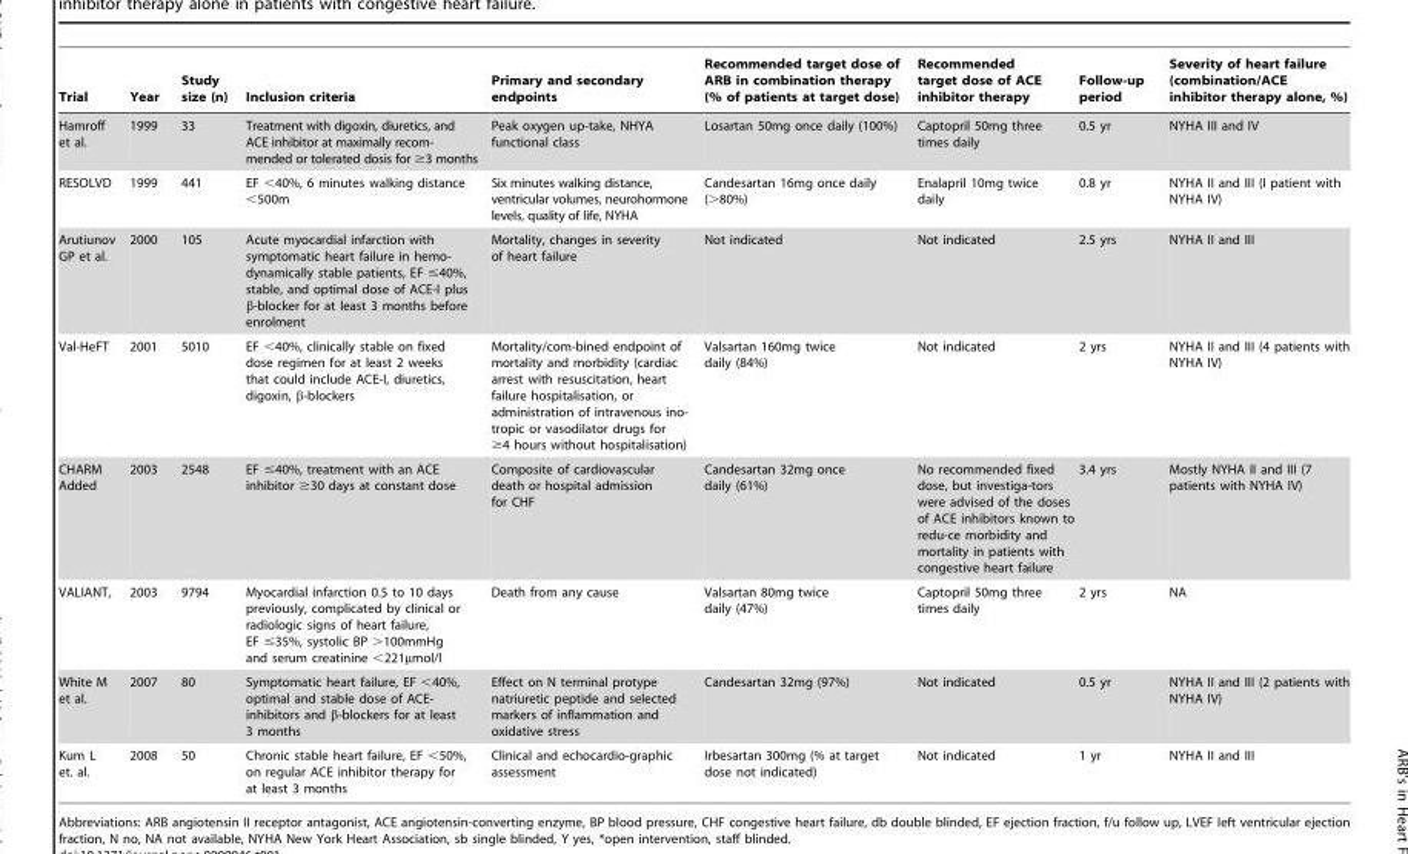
<table><thead><tr><td>Trial</td><td>Year</td><td>Study size (n)</td><td>Inclusion criteria</td><td>Primary and secondary endpoints</td><td>Recommended target dose of ARB in combination therapy (% of patients at target dose)</td><td>Recommended target dose of ACE inhibitor therapy</td><td>Follow-up period</td><td>Severity of heart failure (combination/ACE inhibitor therapy alone, %)</td></tr></thead><tbody><tr><td>Hamroff et al.</td><td>1999</td><td>33</td><td>Treatment with digoxin, diuretics, and ACE inhibitor at maximally recom- mended or tolerated dosis for ≥3 months</td><td>Peak oxygen up-take, NHYA functional class</td><td>Losartan 50mg once daily (100%)</td><td>Captopril 50mg three times daily</td><td>0.5 yr</td><td>NYHA III and IV</td></tr><tr><td>RESOLVD</td><td>1999</td><td>441</td><td>EF &lt;40%, 6 minutes walking distance &lt;500m</td><td>Six minutes walking distance, ventricular volumes, neurohormone levels, quality of life, NYHA</td><td>Candesartan 16mg once daily (&gt;80%)</td><td>Enalapril 10mg twice daily</td><td>0.8 yr</td><td>NYHA II and III (I patient with NYHA IV)</td></tr><tr><td>Arutiunov GP et al.</td><td>2000</td><td>105</td><td>Acute myocardial infarction with symptomatic heart failure in hemo- dynamically stable patients, EF ≤40%, stable, and optimal dose of ACE-I plus β-blocker for at least 3 months before enrolment</td><td>Mortality, changes in severity of heart failure</td><td>Not indicated</td><td>Not indicated</td><td>2.5 yrs</td><td>NYHA II and III</td></tr><tr><td>Val-HeFT</td><td>2001</td><td>5010</td><td>EF &lt;40%, clinically stable on fixed dose regimen for at least 2 weeks that could include ACE-I, diuretics, digoxin, β-blockers</td><td>Mortality/com-bined endpoint of mortality and morbidity (cardiac arrest with resuscitation, heart failure hospitalisation, or administration of intravenous ino- tropic or vasodilator drugs for ≥4 hours without hospitalisation)</td><td>Valsartan 160mg twice daily (84%)</td><td>Not indicated</td><td>2 yrs</td><td>NYHA II and III (4 patients with NYHA IV)</td></tr><tr><td>CHARM Added</td><td>2003</td><td>2548</td><td>EF ≤40%, treatment with an ACE inhibitor ≥30 days at constant dose</td><td>Composite of cardiovascular death or hospital admission for CHF</td><td>Candesartan 32mg once daily (61%)</td><td>No recommended fixed dose, but investiga-tors were advised of the doses of ACE inhibitors known to redu-ce morbidity and mortality in patients with congestive heart failure</td><td>3.4 yrs</td><td>Mostly NYHA II and III (7 patients with NYHA IV)</td></tr><tr><td>VALIANT,</td><td>2003</td><td>9794</td><td>Myocardial infarction 0.5 to 10 days previously, complicated by clinical or radiologic signs of heart failure, EF ≤35%, systolic BP &gt;100mmHg and serum creatinine &lt;221µmol/l</td><td>Death from any cause</td><td>Valsartan 80mg twice daily (47%)</td><td>Captopril 50mg three times daily</td><td>2 yrs</td><td>NA</td></tr><tr><td>White M et al.</td><td>2007</td><td>80</td><td>Symptomatic heart failure, EF &lt;40%, optimal and stable dose of ACE- inhibitors and β-blockers for at least 3 months</td><td>Effect on N terminal protype natriuretic peptide and selected markers of inflammation and oxidative stress</td><td>Candesartan 32mg (97%)</td><td>Not indicated</td><td>0.5 yr</td><td>NYHA II and III (2 patients with NYHA IV)</td></tr><tr><td>Kum L et. al.</td><td>2008</td><td>50</td><td>Chronic stable heart failure, EF &lt;50%, on regular ACE inhibitor therapy for at least 3 months</td><td>Clinical and echocardio-graphic assessment</td><td>Irbesartan 300mg (% at target dose not indicated)</td><td>Not indicated</td><td>1 yr</td><td>NYHA II and III</td></tr></tbody></table>